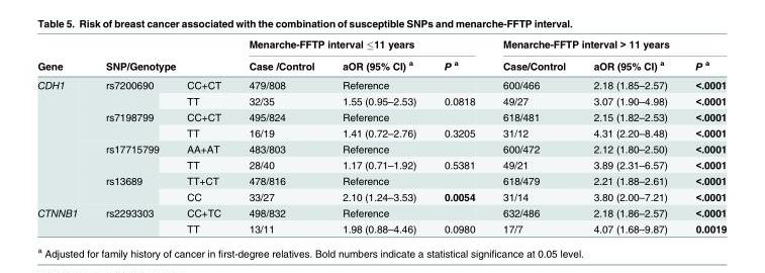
<table><thead><tr><td rowspan="2">Gene</td><td></td><td></td><td colspan="3">Menarche-FFTP interval ≤11 years</td><td colspan="3">Menarche-FFTP interval &gt; 11 years</td></tr><tr><td colspan="2">SNP/Genotype</td><td>Case /Control</td><td>aOR (95% CI) <sup>a</sup></td><td>P <sup>a</sup></td><td>Case/Control</td><td>aOR (95% CI) <sup>a</sup></td><td>P <sup>a</sup></td></tr></thead><tbody><tr><td rowspan="8">CDH1</td><td rowspan="2">rs7200690</td><td>CC+CT</td><td>479/808</td><td>Reference</td><td></td><td>600/466</td><td>2.18 (1.85–2.57)</td><td>&lt;.0001</td></tr><tr><td>TT</td><td>32/35</td><td>1.55 (0.95–2.53)</td><td>0.0818</td><td>49/27</td><td>3.07 (1.90–4.98)</td><td>&lt;.0001</td></tr><tr><td rowspan="2">rs7198799</td><td>CC+CT</td><td>495/824</td><td>Reference</td><td></td><td>618/481</td><td>2.15 (1.82–2.53)</td><td>&lt;.0001</td></tr><tr><td>TT</td><td>16/19</td><td>1.41 (0.72–2.76)</td><td>0.3205</td><td>31/12</td><td>4.31 (2.20–8.48)</td><td>&lt;.0001</td></tr><tr><td rowspan="2">rs17715799</td><td>AA+AT</td><td>483/803</td><td>Reference</td><td></td><td>600/472</td><td>2.12 (1.80–2.50)</td><td>&lt;.0001</td></tr><tr><td>TT</td><td>28/40</td><td>1.17 (0.71–1.92)</td><td>0.5381</td><td>49/21</td><td>3.89 (2.31–6.57)</td><td>&lt;.0001</td></tr><tr><td rowspan="2">rs13689</td><td>TT+CT</td><td>478/816</td><td>Reference</td><td></td><td>618/479</td><td>2.21 (1.88–2.61)</td><td>&lt;.0001</td></tr><tr><td>CC</td><td>33/27</td><td>2.10 (1.24–3.53)</td><td>0.0054</td><td>31/14</td><td>3.80 (2.00–7.21)</td><td>&lt;.0001</td></tr><tr><td rowspan="2">CTNNB1</td><td rowspan="2">rs2293303</td><td>CC+TC</td><td>498/832</td><td>Reference</td><td></td><td>632/486</td><td>2.18 (1.86–2.57)</td><td>&lt;.0001</td></tr><tr><td>TT</td><td>13/11</td><td>1.98 (0.88–4.46)</td><td>0.0980</td><td>17/7</td><td>4.07 (1.68–9.87)</td><td>0.0019</td></tr></tbody></table>